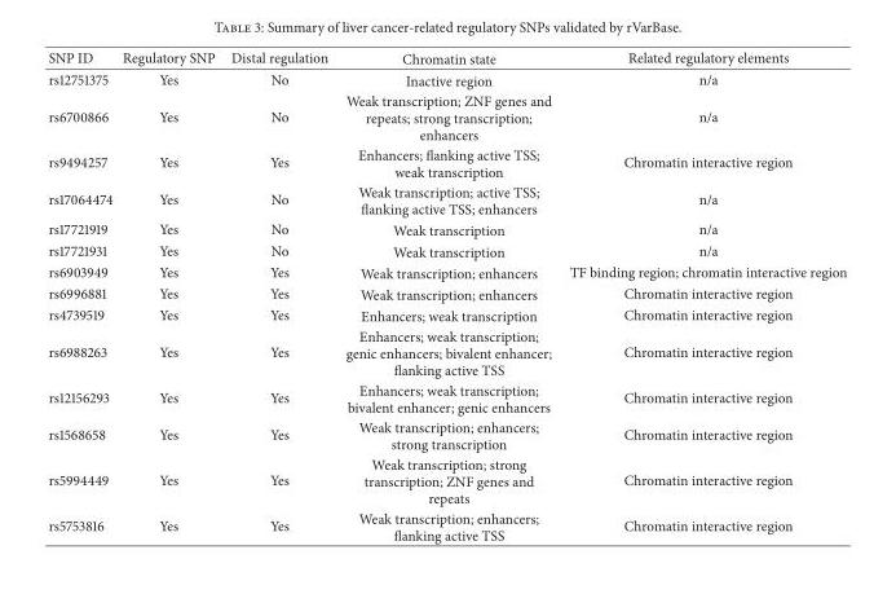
<table><thead><tr><td>SNP ID</td><td>Regulatory SNP</td><td>Distal regulation</td><td>Chromatin state</td><td>Related regulatory elements</td></tr></thead><tbody><tr><td>rs12751375</td><td>Yes</td><td>No</td><td>Inactive region</td><td>n/a</td></tr><tr><td>rs6700866</td><td>Yes</td><td>No</td><td>Weak transcription; ZNF genes and repeats; strong transcription; enhancers</td><td>n/a</td></tr><tr><td>rs9494257</td><td>Yes</td><td>Yes</td><td>Enhancers; flanking active TSS; weak transcription</td><td>Chromatin interactive region</td></tr><tr><td>rs17064474</td><td>Yes</td><td>No</td><td>Weak transcription; active TSS; flanking active TSS; enhancers</td><td>n/a</td></tr><tr><td>rs17721919</td><td>Yes</td><td>No</td><td>Weak transcription</td><td>n/a</td></tr><tr><td>rs17721931</td><td>Yes</td><td>No</td><td>Weak transcription</td><td>n/a</td></tr><tr><td>rs6903949</td><td>Yes</td><td>Yes</td><td>Weak transcription; enhancers</td><td>TF binding region; chromatin interactive region</td></tr><tr><td>rs6996881</td><td>Yes</td><td>Yes</td><td>Weak transcription; enhancers</td><td>Chromatin interactive region</td></tr><tr><td>rs4739519</td><td>Yes</td><td>Yes</td><td>Enhancers; weak transcription</td><td>Chromatin interactive region</td></tr><tr><td>rs6988263</td><td>Yes</td><td>Yes</td><td>Enhancers; weak transcription; genic enhancers; bivalent enhancer; flanking active TSS</td><td>Chromatin interactive region</td></tr><tr><td>rs12156293</td><td>Yes</td><td>Yes</td><td>Enhancers; weak transcription; bivalent enhancer; genic enhancers</td><td>Chromatin interactive region</td></tr><tr><td>rs1568658</td><td>Yes</td><td>Yes</td><td>Weak transcription; enhancers; strong transcription</td><td>Chromatin interactive region</td></tr><tr><td>rs5994449</td><td>Yes</td><td>Yes</td><td>Weak transcription; strong transcription; ZNF genes and repeats</td><td>Chromatin interactive region</td></tr><tr><td>rs5753816</td><td>Yes</td><td>Yes</td><td>Weak transcription; enhancers; flanking active TSS</td><td>Chromatin interactive region</td></tr></tbody></table>